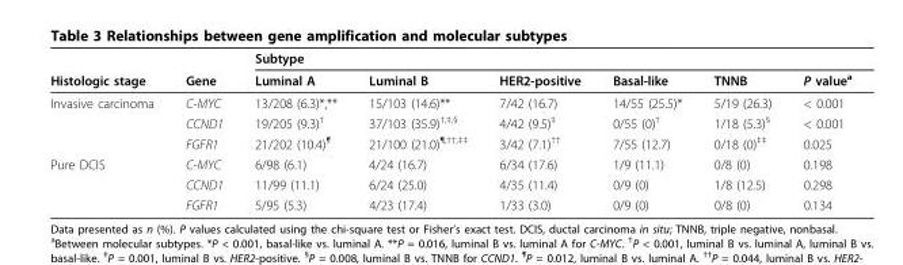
<table><thead><tr><td rowspan="2">Histologic stage</td><td rowspan="2">Gene</td><td colspan="6">Subtype</td></tr><tr><td>Luminal A</td><td>Luminal B</td><td>HER2-positive</td><td>Basal-like</td><td>TNNB</td><td>P value<sup>a</sup></td></tr></thead><tbody><tr><td rowspan="3">Invasive carcinoma</td><td>C-MYC</td><td>13/208 (6.3)*,**</td><td>15/103 (14.6)**</td><td>7/42 (16.7)</td><td>14/55 (25.5)*</td><td>5/19 (26.3)</td><td>&lt; 0.001</td></tr><tr><td>CCND1</td><td>19/205 (9.3)<sup>†</sup></td><td>37/103 (35.9)<sup>†,‡,§</sup></td><td>4/42 (9.5)<sup>‡</sup></td><td>0/55 (0)<sup>†</sup></td><td>1/18 (5.3)<sup>§</sup></td><td>&lt; 0.001</td></tr><tr><td>FGFR1</td><td>21/202 (10.4)<sup>¶</sup></td><td>21/100 (21.0)<sup>¶,††,‡‡</sup></td><td>3/42 (7.1)<sup>††</sup></td><td>7/55 (12.7)</td><td>0/18 (0)<sup>‡‡</sup></td><td>0.025</td></tr><tr><td rowspan="3">Pure DCIS</td><td>C-MYC</td><td>6/98 (6.1)</td><td>4/24 (16.7)</td><td>6/34 (17.6)</td><td>1/9 (11.1)</td><td>0/8 (0)</td><td>0.198</td></tr><tr><td>CCND1</td><td>11/99 (11.1)</td><td>6/24 (25.0)</td><td>4/35 (11.4)</td><td>0/9 (0)</td><td>1/8 (12.5)</td><td>0.298</td></tr><tr><td>FGFR1</td><td>5/95 (5.3)</td><td>4/23 (17.4)</td><td>1/33 (3.0)</td><td>0/9 (0)</td><td>0/8 (0)</td><td>0.134</td></tr></tbody></table>